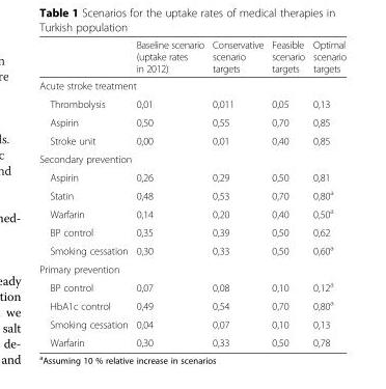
<table><thead><tr><td></td><td>Baseline scenario (uptake rates in 2012)</td><td>Conservative scenario targets</td><td>Feasible scenario targets</td><td>Optimal scenario targets</td></tr></thead><tbody><tr><td colspan="5">Acute stroke treatment</td></tr><tr><td>Thrombolysis</td><td>0,01</td><td>0,011</td><td>0,05</td><td>0,13</td></tr><tr><td>Aspirin</td><td>0,50</td><td>0,55</td><td>0,70</td><td>0,85</td></tr><tr><td>Stroke unit</td><td>0,00</td><td>0,01</td><td>0,40</td><td>0,85</td></tr><tr><td colspan="5">Secondary prevention</td></tr><tr><td>Aspirin</td><td>0,26</td><td>0,29</td><td>0,50</td><td>0,81</td></tr><tr><td>Statin</td><td>0,48</td><td>0,53</td><td>0,70</td><td>0,80<sup>a</sup></td></tr><tr><td>Warfarin</td><td>0,14</td><td>0,20</td><td>0,40</td><td>0,50<sup>a</sup></td></tr><tr><td>BP control</td><td>0,35</td><td>0,39</td><td>0,50</td><td>0,62</td></tr><tr><td>Smoking cessation</td><td>0,30</td><td>0,33</td><td>0,50</td><td>0,60<sup>a</sup></td></tr><tr><td colspan="5">Primary prevention</td></tr><tr><td>BP control</td><td>0,07</td><td>0,08</td><td>0,10</td><td>0,12<sup>a</sup></td></tr><tr><td>HbA1c control</td><td>0,49</td><td>0,54</td><td>0,70</td><td>0,80<sup>a</sup></td></tr><tr><td>Smoking cessation</td><td>0,04</td><td>0,07</td><td>0,10</td><td>0,13</td></tr><tr><td>Warfarin</td><td>0,30</td><td>0,33</td><td>0,50</td><td>0,78</td></tr></tbody></table>